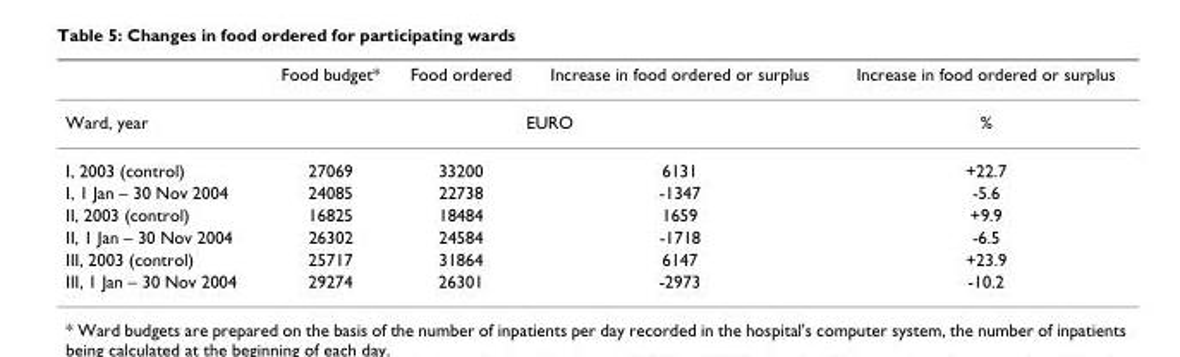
<table><thead><tr><td></td><td>Food budget*</td><td>Food ordered</td><td>Increase in food ordered or surplus</td><td>Increase in food ordered or surplus</td></tr></thead><tbody><tr><td>Ward, year</td><td colspan="3">EURO</td><td>%</td></tr><tr><td>I, 2003 (control)</td><td>27069</td><td>33200</td><td>6131</td><td>+22.7</td></tr><tr><td>I, 1 Jan – 30 Nov 2004</td><td>24085</td><td>22738</td><td>-1347</td><td>-5.6</td></tr><tr><td>II, 2003 (control)</td><td>16825</td><td>18484</td><td>1659</td><td>+9.9</td></tr><tr><td>II, 1 Jan – 30 Nov 2004</td><td>26302</td><td>24584</td><td>-1718</td><td>-6.5</td></tr><tr><td>III, 2003 (control)</td><td>25717</td><td>31864</td><td>6147</td><td>+23.9</td></tr><tr><td>III, 1 Jan – 30 Nov 2004</td><td>29274</td><td>26301</td><td>-2973</td><td>-10.2</td></tr></tbody></table>